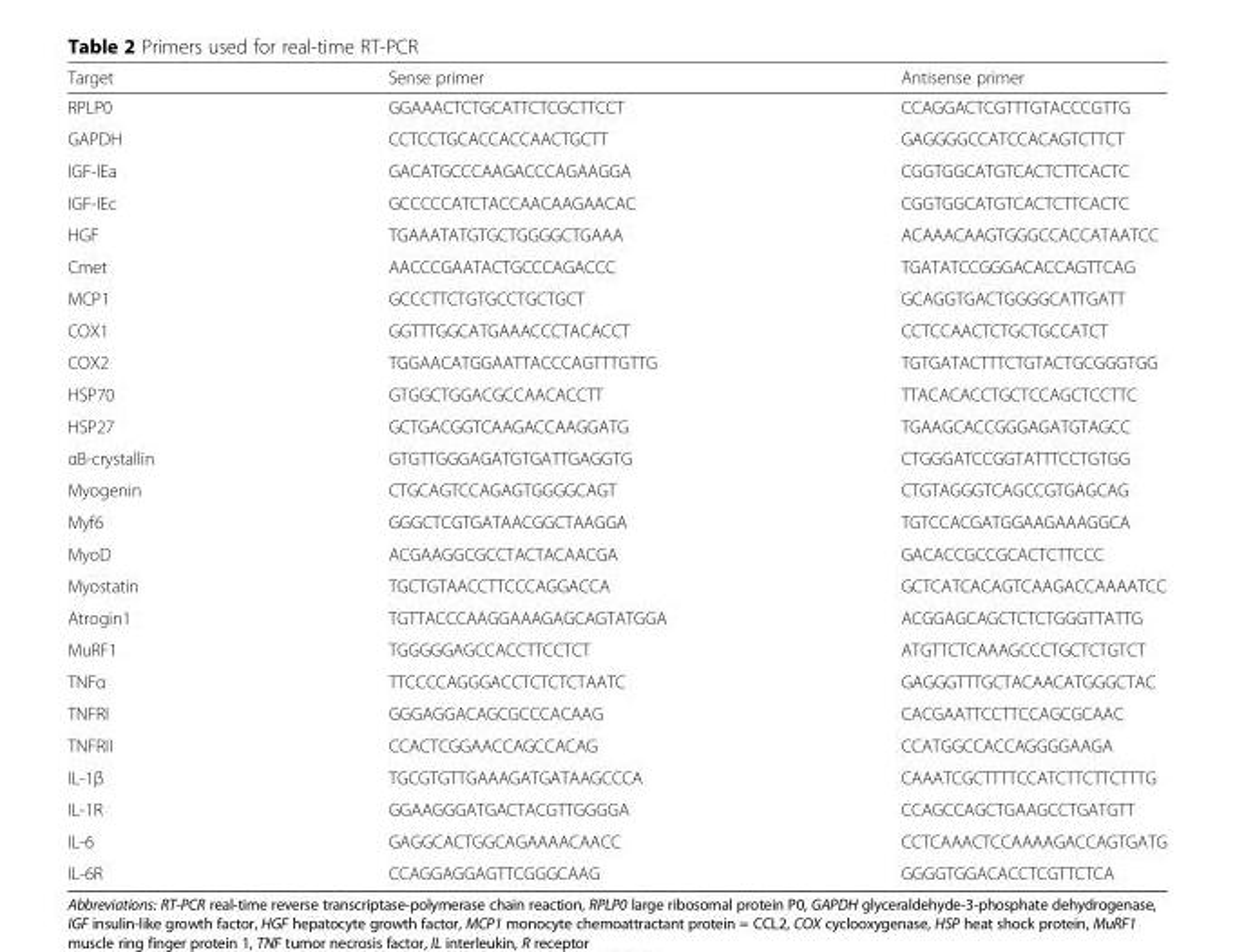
<table><thead><tr><td>Target</td><td>Sense primer</td><td>Antisense primer</td></tr></thead><tbody><tr><td>RPLP0</td><td>GGAAACTCTGCATTCTCGCTTCCT</td><td>CCAGGACTCGTTTGTACCCGTTG</td></tr><tr><td>GAPDH</td><td>CCTCCTGCACCACCAACTGCTT</td><td>GAGGGGCCATCCACAGTCTTCT</td></tr><tr><td>IGF-IEa</td><td>GACATGCCCAAGACCCAGAAGGA</td><td>CGGTGGCATGTCACTCTTCACTC</td></tr><tr><td>IGF-IEc</td><td>GCCCCCATCTACCAACAAGAACAC</td><td>CGGTGGCATGTCACTCTTCACTC</td></tr><tr><td>HGF</td><td>TGAAATATGTGCTGGGGCTGAAA</td><td>ACAAACAAGTGGGCCACCATAATCC</td></tr><tr><td>Cmet</td><td>AACCCGAATACTGCCCAGACCC</td><td>TGATATCCGGGACACCAGTTCAG</td></tr><tr><td>MCP1</td><td>GCCCTTCTGTGCCTGCTGCT</td><td>GCAGGTGACTGGGGCATTGATT</td></tr><tr><td>COX1</td><td>GGTTTGGCATGAAACCCTACACCT</td><td>CCTCCAACTCTGCTGCCATCT</td></tr><tr><td>COX2</td><td>TGGAACATGGAATTACCCAGTTTGTTG</td><td>TGTGATACTTTCTGTACTGCGGGTGG</td></tr><tr><td>HSP70</td><td>GTGGCTGGACGCCAACACCTT</td><td>TTACACACCTGCTCCAGCTCCTTC</td></tr><tr><td>HSP27</td><td>GCTGACGGTCAAGACCAAGGATG</td><td>TGAAGCACCGGGAGATGTAGCC</td></tr><tr><td>αB-crystallin</td><td>GTGTTGGGAGATGTGATTGAGGTG</td><td>CTGGGATCCGGTATTTCCTGTGG</td></tr><tr><td>Myogenin</td><td>CTGCAGTCCAGAGTGGGGCAGT</td><td>CTGTAGGGTCAGCCGTGAGCAG</td></tr><tr><td>Myf6</td><td>GGGCTCGTGATAACGGCTAAGGA</td><td>TGTCCACGATGGAAGAAAGGCA</td></tr><tr><td>MyoD</td><td>ACGAAGGCGCCTACTACAACGA</td><td>GACACCGCCGCACTCTTCCC</td></tr><tr><td>Myostatin</td><td>TGCTGTAACCTTCCCAGGACCA</td><td>GCTCATCACAGTCAAGACCAAAATCC</td></tr><tr><td>Atrogin1</td><td>TGTTACCCAAGGAAAGAGCAGTATGGA</td><td>ACGGAGCAGCTCTCTGGGTTATTG</td></tr><tr><td>MuRF1</td><td>TGGGGGAGCCACCTTCCTCT</td><td>ATGTTCTCAAAGCCCTGCTCTGTCT</td></tr><tr><td>TNFα</td><td>TTCCCCAGGGACCTCTCTCTAATC</td><td>GAGGGTTTGCTACAACATGGGCTAC</td></tr><tr><td>TNFRI</td><td>GGGAGGACAGCGCCCACAAG</td><td>CACGAATTCCTTCCAGCGCAAC</td></tr><tr><td>TNFRII</td><td>CCACTCGGAACCAGCCACAG</td><td>CCATGGCCACCAGGGGAAGA</td></tr><tr><td>IL-1β</td><td>TGCGTGTTGAAAGATGATAAGCCCA</td><td>CAAATCGCTTTTCCATCTTCTTCTTTG</td></tr><tr><td>IL-1R</td><td>GGAAGGGATGACTACGTTGGGGA</td><td>CCAGCCAGCTGAAGCCTGATGTT</td></tr><tr><td>IL-6</td><td>GAGGCACTGGCAGAAAACAACC</td><td>CCTCAAACTCCAAAAGACCAGTGATG</td></tr><tr><td>IL-6R</td><td>CCAGGAGGAGTTCGGGCAAG</td><td>GGGGTGGACACCTCGTTCTCA</td></tr></tbody></table>